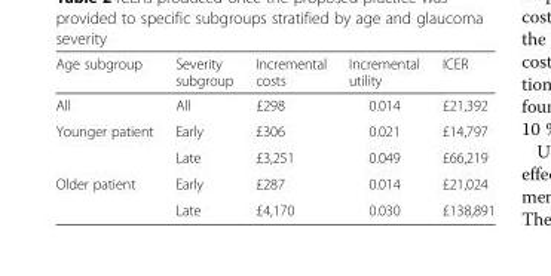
<table><thead><tr><td>Age subgroup</td><td>Severity subgroup</td><td>Incremental costs</td><td>Incremental utility</td><td>ICER</td></tr></thead><tbody><tr><td>All</td><td>All</td><td>£298</td><td>0.014</td><td>£21,392</td></tr><tr><td rowspan="2">Younger patient</td><td>Early</td><td>£306</td><td>0.021</td><td>£14,797</td></tr><tr><td>Late</td><td>£3,251</td><td>0.049</td><td>£66,219</td></tr><tr><td rowspan="2">Older patient</td><td>Early</td><td>£287</td><td>0.014</td><td>£21,024</td></tr><tr><td>Late</td><td>£4,170</td><td>0.030</td><td>£138,891</td></tr></tbody></table>